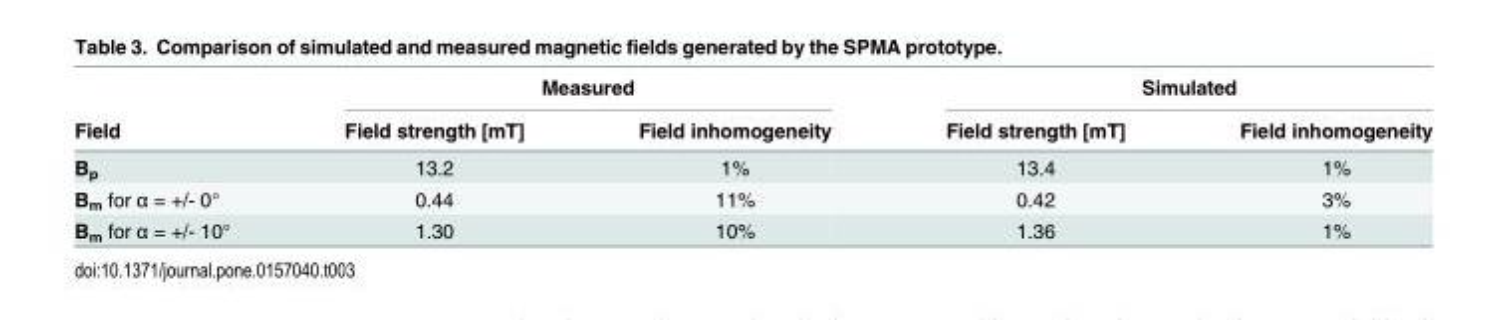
<table><thead><tr><td rowspan="2">Field</td><td colspan="2">Measured</td><td colspan="2">Simulated</td></tr><tr><td>Field strength [mT]</td><td>Field inhomogeneity</td><td>Field strength [mT]</td><td>Field inhomogeneity</td></tr></thead><tbody><tr><td>B<sub>p</sub></td><td>13.2</td><td>1%</td><td>13.4</td><td>1%</td></tr><tr><td>B<sub>m</sub> for α = +/- 0°</td><td>0.44</td><td>11%</td><td>0.42</td><td>3%</td></tr><tr><td>B<sub>m</sub> for α = +/- 10°</td><td>1.30</td><td>10%</td><td>1.36</td><td>1%</td></tr></tbody></table>